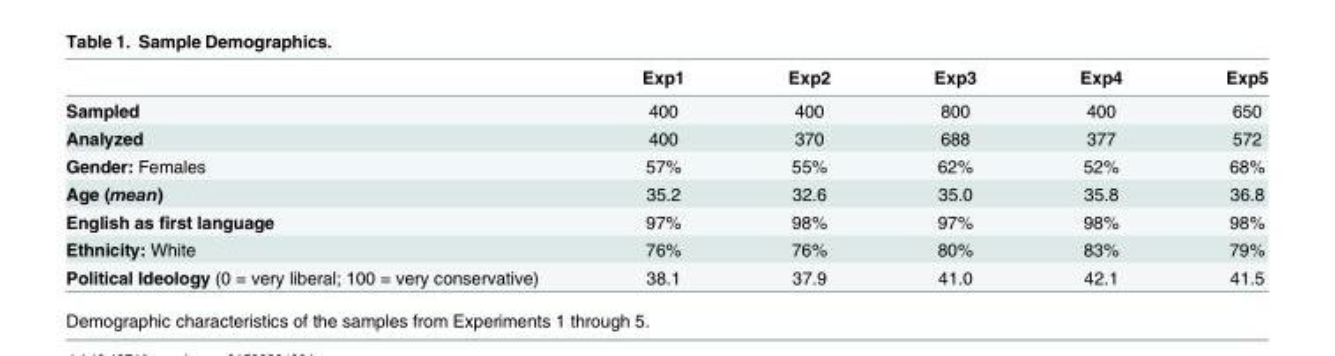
<table><thead><tr><td></td><td>Exp1</td><td>Exp2</td><td>Exp3</td><td>Exp4</td><td>Exp5</td></tr></thead><tbody><tr><td>Sampled</td><td>400</td><td>400</td><td>800</td><td>400</td><td>650</td></tr><tr><td>Analyzed</td><td>400</td><td>370</td><td>688</td><td>377</td><td>572</td></tr><tr><td>Gender: Females</td><td>57%</td><td>55%</td><td>62%</td><td>52%</td><td>68%</td></tr><tr><td>Age (mean)</td><td>35.2</td><td>32.6</td><td>35.0</td><td>35.8</td><td>36.8</td></tr><tr><td>English as first language</td><td>97%</td><td>98%</td><td>97%</td><td>98%</td><td>98%</td></tr><tr><td>Ethnicity: White</td><td>76%</td><td>76%</td><td>80%</td><td>83%</td><td>79%</td></tr><tr><td>Political Ideology (0 = very liberal; 100 = very conservative)</td><td>38.1</td><td>37.9</td><td>41.0</td><td>42.1</td><td>41.5</td></tr></tbody></table>